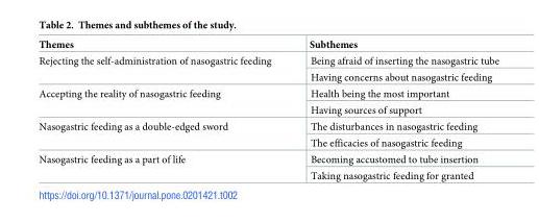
<table><thead><tr><td>Themes</td><td>Subthemes</td></tr></thead><tbody><tr><td rowspan="2">Rejecting the self-administration of nasogastric feeding</td><td>Being afraid of inserting the nasogastric tube</td></tr><tr><td>Having concerns about nasogastric feeding</td></tr><tr><td rowspan="2">Accepting the reality of nasogastric feeding</td><td>Health being the most important</td></tr><tr><td>Having sources of support</td></tr><tr><td rowspan="2">Nasogastric feeding as a double-edged sword</td><td>The disturbances in nasogastric feeding</td></tr><tr><td>The efficacies of nasogastric feeding</td></tr><tr><td rowspan="2">Nasogastric feeding as a part of life</td><td>Becoming accustomed to tube insertion</td></tr><tr><td>Taking nasogastric feeding for granted</td></tr></tbody></table>